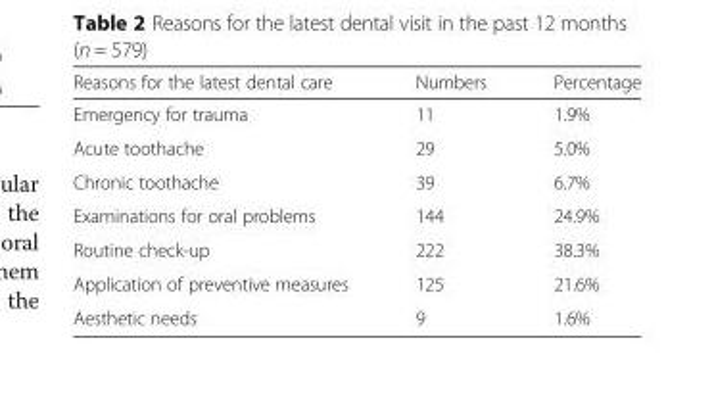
<table><thead><tr><td>Reasons for the latest dental care</td><td>Numbers</td><td>Percentage</td></tr></thead><tbody><tr><td>Emergency for trauma</td><td>11</td><td>1.9%</td></tr><tr><td>Acute toothache</td><td>29</td><td>5.0%</td></tr><tr><td>Chronic toothache</td><td>39</td><td>6.7%</td></tr><tr><td>Examinations for oral problems</td><td>144</td><td>24.9%</td></tr><tr><td>Routine check-up</td><td>222</td><td>38.3%</td></tr><tr><td>Application of preventive measures</td><td>125</td><td>21.6%</td></tr><tr><td>Aesthetic needs</td><td>9</td><td>1.6%</td></tr></tbody></table>